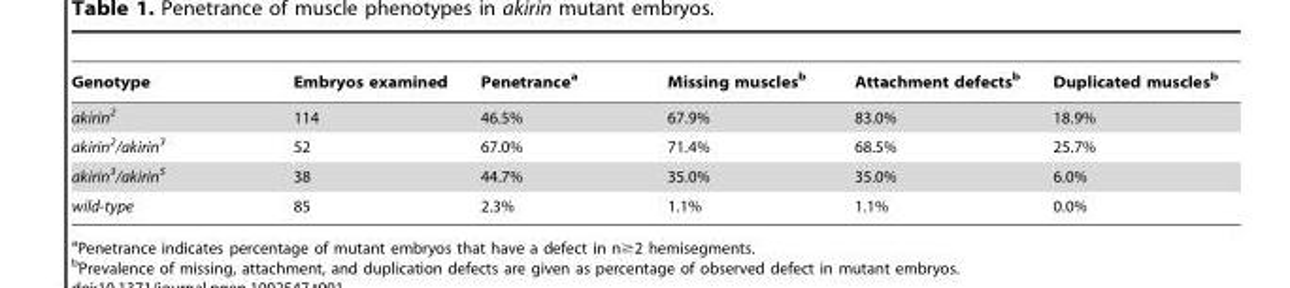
<table><thead><tr><td>Genotype</td><td>Embryos examined</td><td>Penetrance<sup>a</sup></td><td>Missing muscles<sup>b</sup></td><td>Attachment defects<sup>b</sup></td><td>Duplicated muscles<sup>b</sup></td></tr></thead><tbody><tr><td>akirin<sup>2</sup></td><td>114</td><td>46.5%</td><td>67.9%</td><td>83.0%</td><td>18.9%</td></tr><tr><td>akirin<sup>2</sup>/akirin<sup>3</sup></td><td>52</td><td>67.0%</td><td>71.4%</td><td>68.5%</td><td>25.7%</td></tr><tr><td>akirin<sup>3</sup>/akirin<sup>5</sup></td><td>38</td><td>44.7%</td><td>35.0%</td><td>35.0%</td><td>6.0%</td></tr><tr><td>wild-type</td><td>85</td><td>2.3%</td><td>1.1%</td><td>1.1%</td><td>0.0%</td></tr></tbody></table>